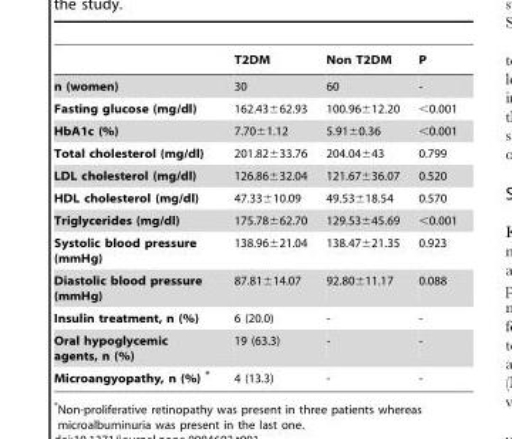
<table><thead><tr><td></td><td>T2DM</td><td>Non T2DM</td><td>P</td></tr></thead><tbody><tr><td>n (women)</td><td>30</td><td>60</td><td>-</td></tr><tr><td>Fasting glucose (mg/dl)</td><td>162.43±62.93</td><td>100.96±12.20</td><td>&lt;0.001</td></tr><tr><td>HbA1c (%)</td><td>7.70±1.12</td><td>5.91±0.36</td><td>&lt;0.001</td></tr><tr><td>Total cholesterol (mg/dl)</td><td>201.82±33.76</td><td>204.04±43</td><td>0.799</td></tr><tr><td>LDL cholesterol (mg/dl)</td><td>126.86±32.04</td><td>121.67±36.07</td><td>0.520</td></tr><tr><td>HDL cholesterol (mg/dl)</td><td>47.33±10.09</td><td>49.53±18.54</td><td>0.570</td></tr><tr><td>Triglycerides (mg/dl)</td><td>175.78±62.70</td><td>129.53±45.69</td><td>&lt;0.001</td></tr><tr><td>Systolic blood pressure (mmHg)</td><td>138.96±21.04</td><td>138.47±21.35</td><td>0.923</td></tr><tr><td>Diastolic blood pressure (mmHg)</td><td>87.81±14.07</td><td>92.80±11.17</td><td>0.088</td></tr><tr><td>Insulin treatment, n (%)</td><td>6 (20.0)</td><td>-</td><td>-</td></tr><tr><td>Oral hypoglycemic agents, n (%)</td><td>19 (63.3)</td><td>-</td><td>-</td></tr><tr><td>Microangyopathy, n (%) *</td><td>4 (13.3)</td><td>-</td><td>-</td></tr></tbody></table>